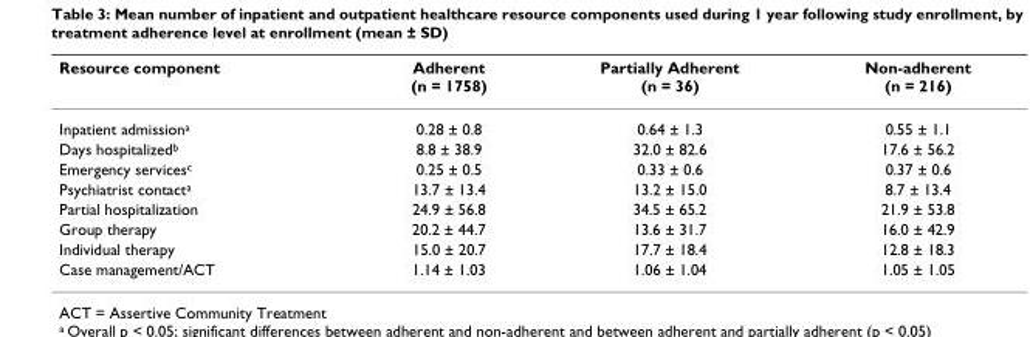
<table><thead><tr><td>Resource component</td><td>Adherent (n = 1758)</td><td>Partially Adherent (n = 36)</td><td>Non-adherent (n = 216)</td></tr></thead><tbody><tr><td>Inpatient admission<sup>a</sup></td><td>0.28 ± 0.8</td><td>0.64 ± 1.3</td><td>0.55 ± 1.1</td></tr><tr><td>Days hospitalized<sup>b</sup></td><td>8.8 ± 38.9</td><td>32.0 ± 82.6</td><td>17.6 ± 56.2</td></tr><tr><td>Emergency services<sup>c</sup></td><td>0.25 ± 0.5</td><td>0.33 ± 0.6</td><td>0.37 ± 0.6</td></tr><tr><td>Psychiatrist contact<sup>a</sup></td><td>13.7 ± 13.4</td><td>13.2 ± 15.0</td><td>8.7 ± 13.4</td></tr><tr><td>Partial hospitalization</td><td>24.9 ± 56.8</td><td>34.5 ± 65.2</td><td>21.9 ± 53.8</td></tr><tr><td>Group therapy</td><td>20.2 ± 44.7</td><td>13.6 ± 31.7</td><td>16.0 ± 42.9</td></tr><tr><td>Individual therapy</td><td>15.0 ± 20.7</td><td>17.7 ± 18.4</td><td>12.8 ± 18.3</td></tr><tr><td>Case management/ACT</td><td>1.14 ± 1.03</td><td>1.06 ± 1.04</td><td>1.05 ± 1.05</td></tr></tbody></table>